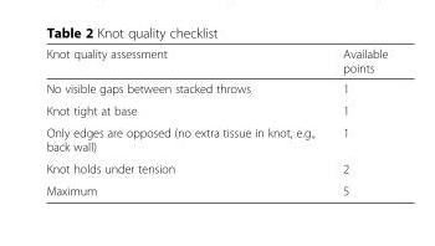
<table><thead><tr><td>Knot quality assessment</td><td>Available points</td></tr></thead><tbody><tr><td>No visible gaps between stacked throws</td><td>1</td></tr><tr><td>Knot tight at base</td><td>1</td></tr><tr><td>Only edges are opposed (no extra tissue in knot, e.g., back wall)</td><td>1</td></tr><tr><td>Knot holds under tension</td><td>2</td></tr><tr><td>Maximum</td><td>5</td></tr></tbody></table>